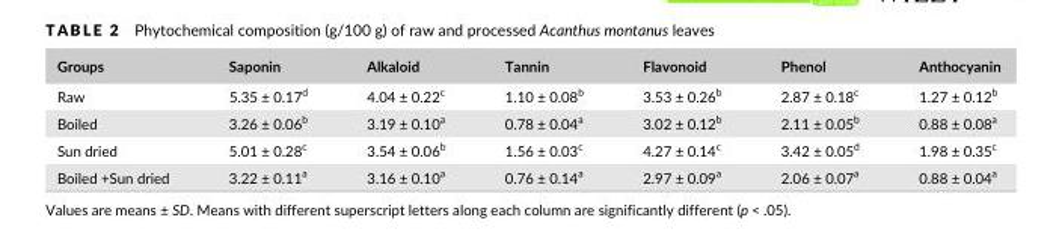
<table><thead><tr><td>Groups</td><td>Saponin</td><td>Alkaloid</td><td>Tannin</td><td>Flavonoid</td><td>Phenol</td><td>Anthocyanin</td></tr></thead><tbody><tr><td>Raw</td><td>5.35 ± 0.17<sup>d</sup></td><td>4.04 ± 0.22<sup>c</sup></td><td>1.10 ± 0.08<sup>b</sup></td><td>3.53 ± 0.26<sup>b</sup></td><td>2.87 ± 0.18<sup>c</sup></td><td>1.27 ± 0.12<sup>b</sup></td></tr><tr><td>Boiled</td><td>3.26 ± 0.06<sup>b</sup></td><td>3.19 ± 0.10<sup>a</sup></td><td>0.78 ± 0.04<sup>a</sup></td><td>3.02 ± 0.12<sup>b</sup></td><td>2.11 ± 0.05<sup>b</sup></td><td>0.88 ± 0.08<sup>a</sup></td></tr><tr><td>Sun dried</td><td>5.01 ± 0.28<sup>c</sup></td><td>3.54 ± 0.06<sup>b</sup></td><td>1.56 ± 0.03<sup>c</sup></td><td>4.27 ± 0.14<sup>c</sup></td><td>3.42 ± 0.05<sup>d</sup></td><td>1.98 ± 0.35<sup>c</sup></td></tr><tr><td>Boiled +Sun dried</td><td>3.22 ± 0.11<sup>a</sup></td><td>3.16 ± 0.10<sup>a</sup></td><td>0.76 ± 0.14<sup>a</sup></td><td>2.97 ± 0.09<sup>a</sup></td><td>2.06 ± 0.07<sup>a</sup></td><td>0.88 ± 0.04<sup>a</sup></td></tr></tbody></table>